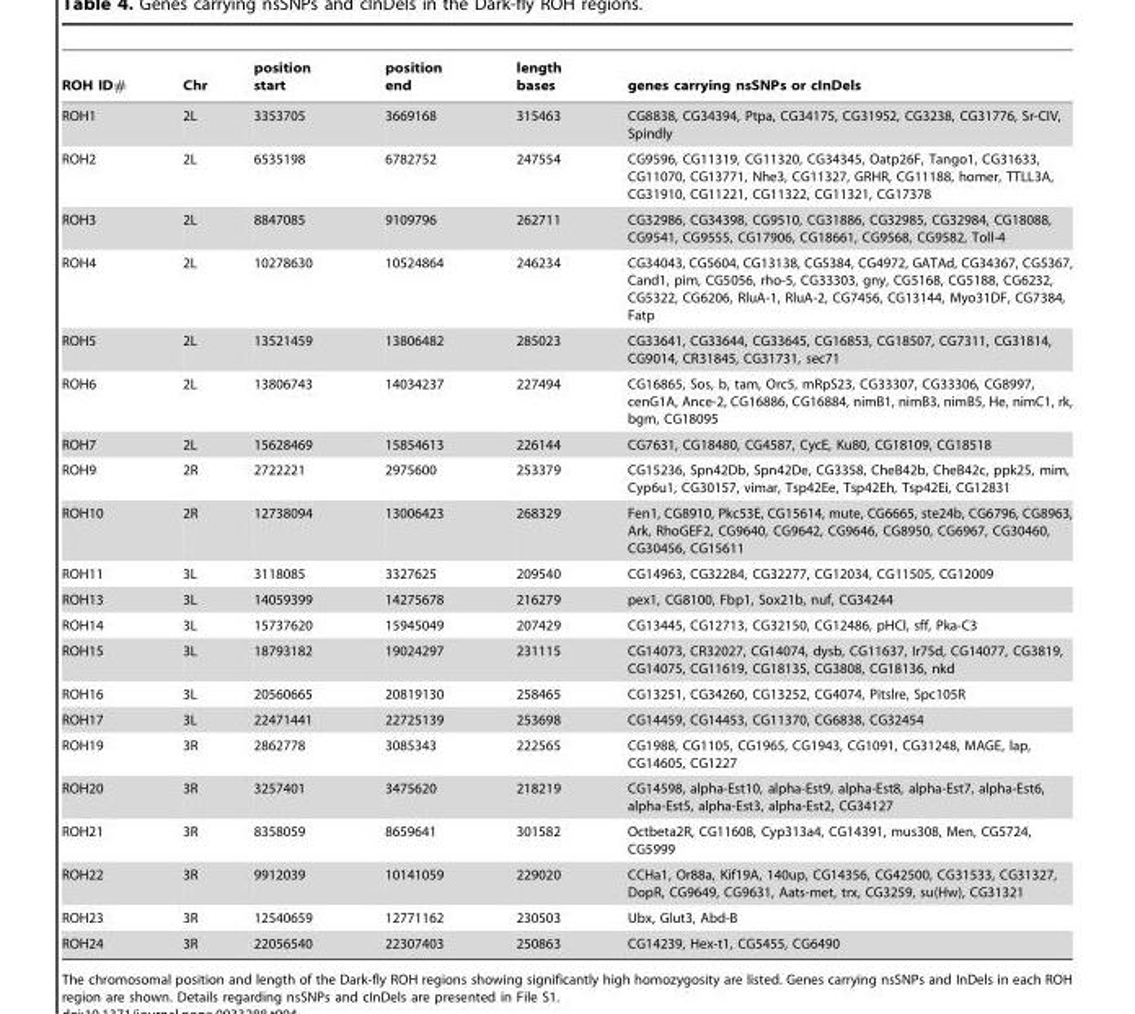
<table><thead><tr><td>ROH ID#</td><td>Chr</td><td>position start</td><td>position end</td><td>length bases</td><td>genes carrying nsSNPs or cInDels</td></tr></thead><tbody><tr><td>ROH1</td><td>2L</td><td>3353705</td><td>3669168</td><td>315463</td><td>CG8838, CG34394, Ptpa, CG34175, CG31952, CG3238, CG31776, Sr-CIV, Spindly</td></tr><tr><td>ROH2</td><td>2L</td><td>6535198</td><td>6782752</td><td>247554</td><td>CG9596, CG11319, CG11320, CG34345, Oatp26F, Tango1, CG31633, CG11070, CG13771, Nhe3, CG11327, GRHR, CG11188, homer, TTLL3A, CG31910, CG11221, CG11322, CG11321, CG17378</td></tr><tr><td>ROH3</td><td>2L</td><td>8847085</td><td>9109796</td><td>262711</td><td>CG32986, CG34398, CG9510, CG31886, CG32985, CG32984, CG18088, CG9541, CG9555, CG17906, CG18661, CG9568, CG9582, Toll-4</td></tr><tr><td>ROH4</td><td>2L</td><td>10278630</td><td>10524864</td><td>246234</td><td>CG34043, CG5604, CG13138, CG5384, CG4972, GATAd, CG34367, CG5367, Cand1, pim, CG5056, rho-5, CG33303, gny, CG5168, CG5188, CG6232, CG5322, CG6206, RluA-1, RluA-2, CG7456, CG13144, Myo31DF, CG7384, Fatp</td></tr><tr><td>ROH5</td><td>2L</td><td>13521459</td><td>13806482</td><td>285023</td><td>CG33641, CG33644, CG33645, CG16853, CG18507, CG7311, CG31814, CG9014, CR31845, CG31731, sec71</td></tr><tr><td>ROH6</td><td>2L</td><td>13806743</td><td>14034237</td><td>227494</td><td>CG16865, Sos, b, tam, Orc5, mRpS23, CG33307, CG33306, CG8997, cenG1A, Ance-2, CG16886, CG16884, nimB1, nimB3, nimB5, He, nimC1, rk, bgm, CG18095</td></tr><tr><td>ROH7</td><td>2L</td><td>15628469</td><td>15854613</td><td>226144</td><td>CG7631, CG18480, CG4587, CycE, Ku80, CG18109, CG18518</td></tr><tr><td>ROH9</td><td>2R</td><td>2722221</td><td>2975600</td><td>253379</td><td>CG15236, Spn42Db, Spn42De, CG3358, CheB42b, CheB42c, ppk25, mim, Cyp6u1, CG30157, vimar, Tsp42Ee, Tsp42Eh, Tsp42Ei, CG12831</td></tr><tr><td>ROH10</td><td>2R</td><td>12738094</td><td>13006423</td><td>268329</td><td>Fen1, CG8910, Pkc53E, CG15614, mute, CG6665, ste24b, CG6796, CG8963, Ark, RhoGEF2, CG9640, CG9642, CG9646, CG8950, CG6967, CG30460, CG30456, CG15611</td></tr><tr><td>ROH11</td><td>3L</td><td>3118085</td><td>3327625</td><td>209540</td><td>CG14963, CG32284, CG32277, CG12034, CG11505, CG12009</td></tr><tr><td>ROH13</td><td>3L</td><td>14059399</td><td>14275678</td><td>216279</td><td>pex1, CG8100, Fbp1, Sox21b, nuf, CG34244</td></tr><tr><td>ROH14</td><td>3L</td><td>15737620</td><td>15945049</td><td>207429</td><td>CG13445, CG12713, CG32150, CG12486, pHCl, sff, Pka-C3</td></tr><tr><td>ROH15</td><td>3L</td><td>18793182</td><td>19024297</td><td>231115</td><td>CG14073, CR32027, CG14074, dysb, CG11637, Ir75d, CG14077, CG3819, CG14075, CG11619, CG18135, CG3808, CG18136, nkd</td></tr><tr><td>ROH16</td><td>3L</td><td>20560665</td><td>20819130</td><td>258465</td><td>CG13251, CG34260, CG13252, CG4074, Pitslre, Spc105R</td></tr><tr><td>ROH17</td><td>3L</td><td>22471441</td><td>22725139</td><td>253698</td><td>CG14459, CG14453, CG11370, CG6838, CG32454</td></tr><tr><td>ROH19</td><td>3R</td><td>2862778</td><td>3085343</td><td>222565</td><td>CG1988, CG1105, CG1965, CG1943, CG1091, CG31248, MAGE, lap, CG14605, CG1227</td></tr><tr><td>ROH20</td><td>3R</td><td>3257401</td><td>3475620</td><td>218219</td><td>CG14598, alpha-Est10, alpha-Est9, alpha-Est8, alpha-Est7, alpha-Est6, alpha-Est5, alpha-Est3, alpha-Est2, CG34127</td></tr><tr><td>ROH21</td><td>3R</td><td>8358059</td><td>8659641</td><td>301582</td><td>Octbeta2R, CG11608, Cyp313a4, CG14391, mus308, Men, CG5724, CG5999</td></tr><tr><td>ROH22</td><td>3R</td><td>9912039</td><td>10141059</td><td>229020</td><td>CCHa1, Or88a, Kif19A, 140up, CG14356, CG42500, CG31533, CG31327, DopR, CG9649, CG9631, Aats-met, trx, CG3259, su(Hw), CG31321</td></tr><tr><td>ROH23</td><td>3R</td><td>12540659</td><td>12771162</td><td>230503</td><td>Ubx, Glut3, Abd-B</td></tr><tr><td>ROH24</td><td>3R</td><td>22056540</td><td>22307403</td><td>250863</td><td>CG14239, Hex-t1, CG5455, CG6490</td></tr></tbody></table>